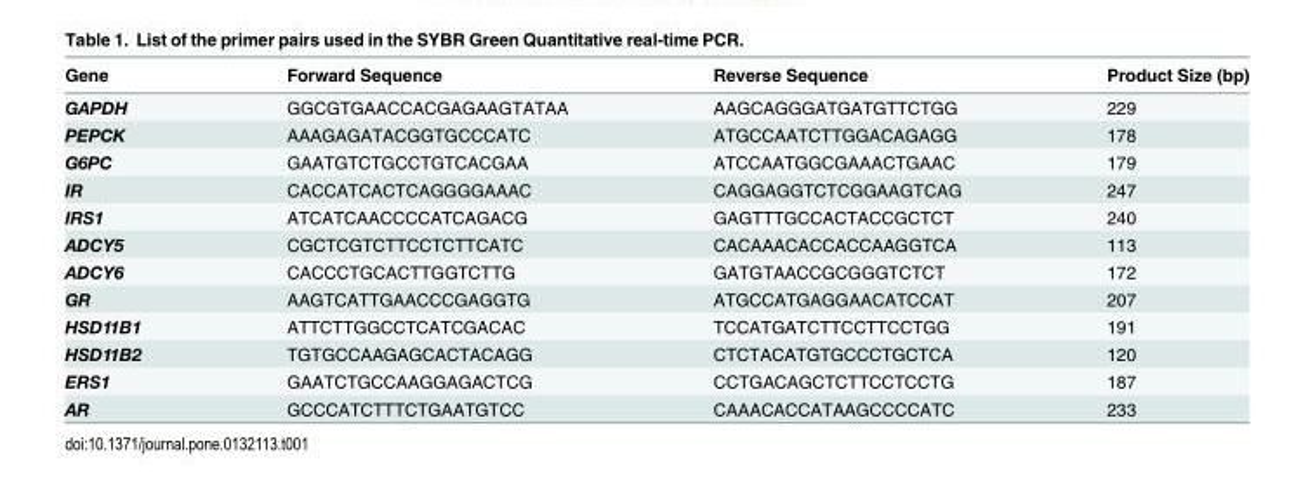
<table><thead><tr><td>Gene</td><td>Forward Sequence</td><td>Reverse Sequence</td><td>Product Size (bp)</td></tr></thead><tbody><tr><td>GAPDH</td><td>GGCGTGAACCACGAGAAGTATAA</td><td>AAGCAGGGATGATGTTCTGG</td><td>229</td></tr><tr><td>PEPCK</td><td>AAAGAGATACGGTGCCCATC</td><td>ATGCCAATCTTGGACAGAGG</td><td>178</td></tr><tr><td>G6PC</td><td>GAATGTCTGCCTGTCACGAA</td><td>ATCCAATGGCGAAACTGAAC</td><td>179</td></tr><tr><td>IR</td><td>CACCATCACTCAGGGGAAAC</td><td>CAGGAGGTCTCGGAAGTCAG</td><td>247</td></tr><tr><td>IRS1</td><td>ATCATCAACCCCATCAGACG</td><td>GAGTTTGCCACTACCGCTCT</td><td>240</td></tr><tr><td>ADCY5</td><td>CGCTCGTCTTCCTCTTCATC</td><td>CACAAACACCACCAAGGTCA</td><td>113</td></tr><tr><td>ADCY6</td><td>CACCCTGCACTTGGTCTTG</td><td>GATGTAACCGCGGGTCTCT</td><td>172</td></tr><tr><td>GR</td><td>AAGTCATTGAACCCGAGGTG</td><td>ATGCCATGAGGAACATCCAT</td><td>207</td></tr><tr><td>HSD11B1</td><td>ATTCTTGGCCTCATCGACAC</td><td>TCCATGATCTTCCTTCCTGG</td><td>191</td></tr><tr><td>HSD11B2</td><td>TGTGCCAAGAGCACTACAGG</td><td>CTCTACATGTGCCCTGCTCA</td><td>120</td></tr><tr><td>ERS1</td><td>GAATCTGCCAAGGAGACTCG</td><td>CCTGACAGCTCTTCCTCCTG</td><td>187</td></tr><tr><td>AR</td><td>GCCCATCTTTCTGAATGTCC</td><td>CAAACACCATAAGCCCCATC</td><td>233</td></tr></tbody></table>